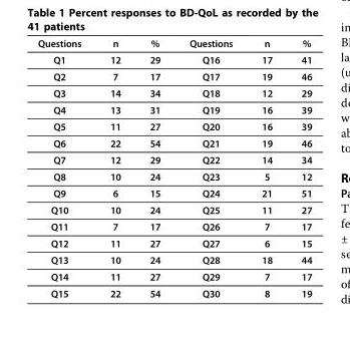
<table><thead><tr><td>Questions</td><td>n</td><td>%</td><td>Questions</td><td>n</td><td>%</td></tr></thead><tbody><tr><td>Q1</td><td>12</td><td>29</td><td>Q16</td><td>17</td><td>41</td></tr><tr><td>Q2</td><td>7</td><td>17</td><td>Q17</td><td>19</td><td>46</td></tr><tr><td>Q3</td><td>14</td><td>34</td><td>Q18</td><td>12</td><td>29</td></tr><tr><td>Q4</td><td>13</td><td>31</td><td>Q19</td><td>16</td><td>39</td></tr><tr><td>Q5</td><td>11</td><td>27</td><td>Q20</td><td>16</td><td>39</td></tr><tr><td>Q6</td><td>22</td><td>54</td><td>Q21</td><td>19</td><td>46</td></tr><tr><td>Q7</td><td>12</td><td>29</td><td>Q22</td><td>14</td><td>34</td></tr><tr><td>Q8</td><td>10</td><td>24</td><td>Q23</td><td>5</td><td>12</td></tr><tr><td>Q9</td><td>6</td><td>15</td><td>Q24</td><td>21</td><td>51</td></tr><tr><td>Q10</td><td>10</td><td>24</td><td>Q25</td><td>11</td><td>27</td></tr><tr><td>Q11</td><td>7</td><td>17</td><td>Q26</td><td>7</td><td>17</td></tr><tr><td>Q12</td><td>11</td><td>27</td><td>Q27</td><td>6</td><td>15</td></tr><tr><td>Q13</td><td>10</td><td>24</td><td>Q28</td><td>18</td><td>44</td></tr><tr><td>Q14</td><td>11</td><td>27</td><td>Q29</td><td>7</td><td>17</td></tr><tr><td>Q15</td><td>22</td><td>54</td><td>Q30</td><td>8</td><td>19</td></tr></tbody></table>